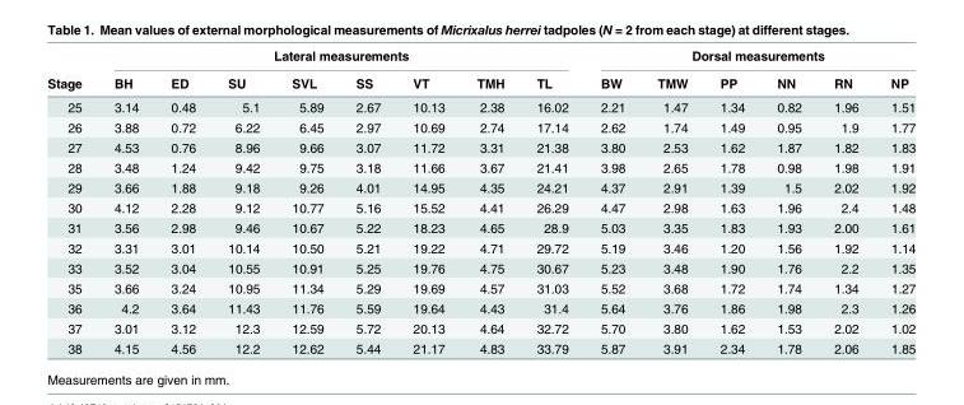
<table><thead><tr><td rowspan="2">Stage</td><td colspan="8">Lateral measurements</td><td colspan="6">Dorsal measurements</td></tr><tr><td>BH</td><td>ED</td><td>SU</td><td>SVL</td><td>SS</td><td>VT</td><td>TMH</td><td>TL</td><td>BW</td><td>TMW</td><td>PP</td><td>NN</td><td>RN</td><td>NP</td></tr></thead><tbody><tr><td>25</td><td>3.14</td><td>0.48</td><td>5.1</td><td>5.89</td><td>2.67</td><td>10.13</td><td>2.38</td><td>16.02</td><td>2.21</td><td>1.47</td><td>1.34</td><td>0.82</td><td>1.96</td><td>1.51</td></tr><tr><td>26</td><td>3.88</td><td>0.72</td><td>6.22</td><td>6.45</td><td>2.97</td><td>10.69</td><td>2.74</td><td>17.14</td><td>2.62</td><td>1.74</td><td>1.49</td><td>0.95</td><td>1.9</td><td>1.77</td></tr><tr><td>27</td><td>4.53</td><td>0.76</td><td>8.96</td><td>9.66</td><td>3.07</td><td>11.72</td><td>3.31</td><td>21.38</td><td>3.80</td><td>2.53</td><td>1.62</td><td>1.87</td><td>1.82</td><td>1.83</td></tr><tr><td>28</td><td>3.48</td><td>1.24</td><td>9.42</td><td>9.75</td><td>3.18</td><td>11.66</td><td>3.67</td><td>21.41</td><td>3.98</td><td>2.65</td><td>1.78</td><td>0.98</td><td>1.98</td><td>1.91</td></tr><tr><td>29</td><td>3.66</td><td>1.88</td><td>9.18</td><td>9.26</td><td>4.01</td><td>14.95</td><td>4.35</td><td>24.21</td><td>4.37</td><td>2.91</td><td>1.39</td><td>1.5</td><td>2.02</td><td>1.92</td></tr><tr><td>30</td><td>4.12</td><td>2.28</td><td>9.12</td><td>10.77</td><td>5.16</td><td>15.52</td><td>4.41</td><td>26.29</td><td>4.47</td><td>2.98</td><td>1.63</td><td>1.96</td><td>2.4</td><td>1.48</td></tr><tr><td>31</td><td>3.56</td><td>2.98</td><td>9.46</td><td>10.67</td><td>5.22</td><td>18.23</td><td>4.65</td><td>28.9</td><td>5.03</td><td>3.35</td><td>1.83</td><td>1.93</td><td>2.00</td><td>1.61</td></tr><tr><td>32</td><td>3.31</td><td>3.01</td><td>10.14</td><td>10.50</td><td>5.21</td><td>19.22</td><td>4.71</td><td>29.72</td><td>5.19</td><td>3.46</td><td>1.20</td><td>1.56</td><td>1.92</td><td>1.14</td></tr><tr><td>33</td><td>3.52</td><td>3.04</td><td>10.55</td><td>10.91</td><td>5.25</td><td>19.76</td><td>4.75</td><td>30.67</td><td>5.23</td><td>3.48</td><td>1.90</td><td>1.76</td><td>2.2</td><td>1.35</td></tr><tr><td>35</td><td>3.66</td><td>3.24</td><td>10.95</td><td>11.34</td><td>5.29</td><td>19.69</td><td>4.57</td><td>31.03</td><td>5.52</td><td>3.68</td><td>1.72</td><td>1.74</td><td>1.34</td><td>1.27</td></tr><tr><td>36</td><td>4.2</td><td>3.64</td><td>11.43</td><td>11.76</td><td>5.59</td><td>19.64</td><td>4.43</td><td>31.4</td><td>5.64</td><td>3.76</td><td>1.86</td><td>1.98</td><td>2.3</td><td>1.26</td></tr><tr><td>37</td><td>3.01</td><td>3.12</td><td>12.3</td><td>12.59</td><td>5.72</td><td>20.13</td><td>4.64</td><td>32.72</td><td>5.70</td><td>3.80</td><td>1.62</td><td>1.53</td><td>2.02</td><td>1.02</td></tr><tr><td>38</td><td>4.15</td><td>4.56</td><td>12.2</td><td>12.62</td><td>5.44</td><td>21.17</td><td>4.83</td><td>33.79</td><td>5.87</td><td>3.91</td><td>2.34</td><td>1.78</td><td>2.06</td><td>1.85</td></tr></tbody></table>